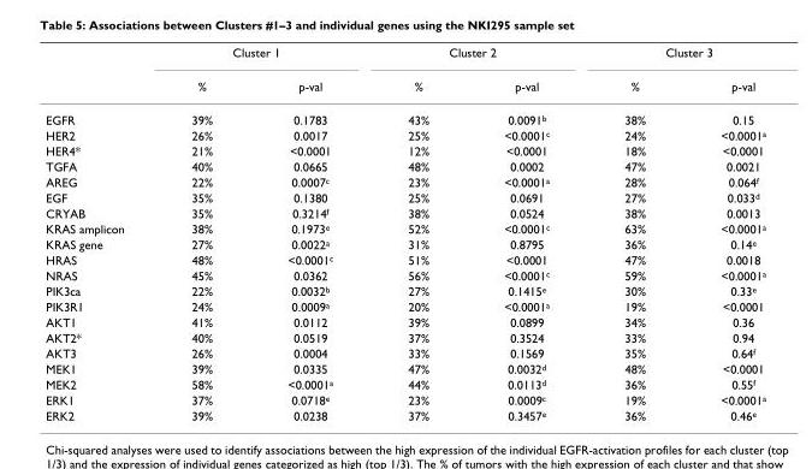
<table><thead><tr><td rowspan="2"></td><td colspan="2">Cluster 1</td><td colspan="2">Cluster 2</td><td colspan="2">Cluster 3</td></tr><tr><td>%</td><td>p-val</td><td>%</td><td>p-val</td><td>%</td><td>p-val</td></tr></thead><tbody><tr><td>EGFR</td><td>39%</td><td>0.1783</td><td>43%</td><td>0.0091<sup>b</sup></td><td>38%</td><td>0.15</td></tr><tr><td>HER2</td><td>26%</td><td>0.0017</td><td>25%</td><td>&lt;0.0001<sup>c</sup></td><td>24%</td><td>&lt;0.0001<sup>a</sup></td></tr><tr><td>HER4*</td><td>21%</td><td>&lt;0.0001</td><td>12%</td><td>&lt;0.0001</td><td>18%</td><td>&lt;0.0001</td></tr><tr><td>TGFA</td><td>40%</td><td>0.0665</td><td>48%</td><td>0.0002</td><td>47%</td><td>0.0021</td></tr><tr><td>AREG</td><td>22%</td><td>0.0007<sup>c</sup></td><td>23%</td><td>&lt;0.0001<sup>a</sup></td><td>28%</td><td>0.064<sup>f</sup></td></tr><tr><td>EGF</td><td>35%</td><td>0.1380</td><td>25%</td><td>0.0691</td><td>27%</td><td>0.033<sup>d</sup></td></tr><tr><td>CRYAB</td><td>35%</td><td>0.3214<sup>f</sup></td><td>38%</td><td>0.0524</td><td>38%</td><td>0.0013</td></tr><tr><td>KRAS amplicon</td><td>38%</td><td>0.1973<sup>e</sup></td><td>52%</td><td>&lt;0.0001<sup>c</sup></td><td>63%</td><td>&lt;0.0001<sup>a</sup></td></tr><tr><td>KRAS gene</td><td>27%</td><td>0.0022<sup>a</sup></td><td>31%</td><td>0.8795</td><td>36%</td><td>0.14<sup>e</sup></td></tr><tr><td>HRAS</td><td>48%</td><td>&lt;0.0001<sup>c</sup></td><td>51%</td><td>&lt;0.0001</td><td>47%</td><td>0.0018</td></tr><tr><td>NRAS</td><td>45%</td><td>0.0362</td><td>56%</td><td>&lt;0.0001<sup>c</sup></td><td>59%</td><td>&lt;0.0001<sup>a</sup></td></tr><tr><td>PIK3ca</td><td>22%</td><td>0.0032<sup>b</sup></td><td>27%</td><td>0.1415<sup>e</sup></td><td>30%</td><td>0.33<sup>e</sup></td></tr><tr><td>PIK3R1</td><td>24%</td><td>0.0009<sup>a</sup></td><td>20%</td><td>&lt;0.0001<sup>a</sup></td><td>19%</td><td>&lt;0.0001</td></tr><tr><td>AKT1</td><td>41%</td><td>0.0112</td><td>39%</td><td>0.0899</td><td>34%</td><td>0.36</td></tr><tr><td>AKT2*</td><td>40%</td><td>0.0519</td><td>37%</td><td>0.3524</td><td>33%</td><td>0.94</td></tr><tr><td>AKT3</td><td>26%</td><td>0.0004</td><td>33%</td><td>0.1569</td><td>35%</td><td>0.64<sup>f</sup></td></tr><tr><td>MEK1</td><td>39%</td><td>0.0335</td><td>47%</td><td>0.0032<sup>d</sup></td><td>48%</td><td>&lt;0.0001</td></tr><tr><td>MEK2</td><td>58%</td><td>&lt;0.0001<sup>a</sup></td><td>44%</td><td>0.0113<sup>d</sup></td><td>36%</td><td>0.55<sup>f</sup></td></tr><tr><td>ERK1</td><td>37%</td><td>0.0718<sup>e</sup></td><td>23%</td><td>0.0009<sup>c</sup></td><td>19%</td><td>&lt;0.0001<sup>a</sup></td></tr><tr><td>ERK2</td><td>39%</td><td>0.0238</td><td>37%</td><td>0.3457<sup>e</sup></td><td>36%</td><td>0.46<sup>e</sup></td></tr></tbody></table>